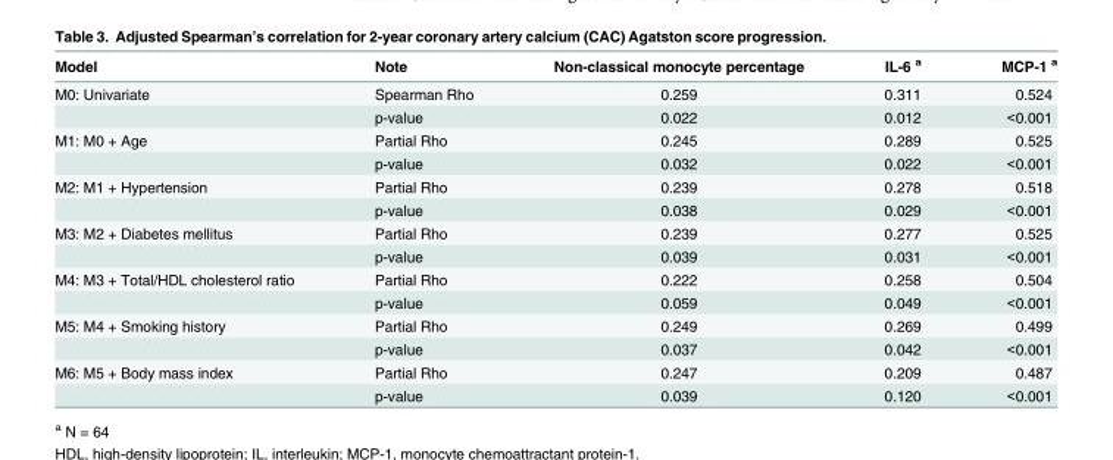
<table><thead><tr><td>Model</td><td>Note</td><td>Non-classical monocyte percentage</td><td>IL-6 <sup>a</sup></td><td>MCP-1 <sup>a</sup></td></tr></thead><tbody><tr><td rowspan="2">M0: Univariate</td><td>Spearman Rho</td><td>0.259</td><td>0.311</td><td>0.524</td></tr><tr><td>p-value</td><td>0.022</td><td>0.012</td><td>&lt;0.001</td></tr><tr><td rowspan="2">M1: M0 + Age</td><td>Partial Rho</td><td>0.245</td><td>0.289</td><td>0.525</td></tr><tr><td>p-value</td><td>0.032</td><td>0.022</td><td>&lt;0.001</td></tr><tr><td rowspan="2">M2: M1 + Hypertension</td><td>Partial Rho</td><td>0.239</td><td>0.278</td><td>0.518</td></tr><tr><td>p-value</td><td>0.038</td><td>0.029</td><td>&lt;0.001</td></tr><tr><td rowspan="2">M3: M2 + Diabetes mellitus</td><td>Partial Rho</td><td>0.239</td><td>0.277</td><td>0.525</td></tr><tr><td>p-value</td><td>0.039</td><td>0.031</td><td>&lt;0.001</td></tr><tr><td rowspan="2">M4: M3 + Total/HDL cholesterol ratio</td><td>Partial Rho</td><td>0.222</td><td>0.258</td><td>0.504</td></tr><tr><td>p-value</td><td>0.059</td><td>0.049</td><td>&lt;0.001</td></tr><tr><td rowspan="2">M5: M4 + Smoking history</td><td>Partial Rho</td><td>0.249</td><td>0.269</td><td>0.499</td></tr><tr><td>p-value</td><td>0.037</td><td>0.042</td><td>&lt;0.001</td></tr><tr><td rowspan="2">M6: M5 + Body mass index</td><td>Partial Rho</td><td>0.247</td><td>0.209</td><td>0.487</td></tr><tr><td>p-value</td><td>0.039</td><td>0.120</td><td>&lt;0.001</td></tr></tbody></table>